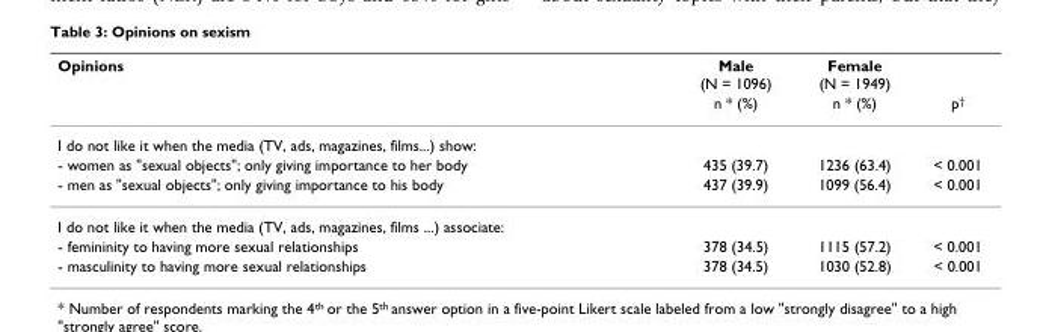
<table><thead><tr><td rowspan="2">Opinions</td><td rowspan="2">Male (N = 1096) n * (%)</td><td rowspan="2">Female (N = 1949) n * (%)</td><td rowspan="2">p<sup>†</sup></td></tr><tr></tr></thead><tbody><tr><td colspan="4">I do not like it when the media (TV, ads, magazines, films...) show:</td></tr><tr><td>- women as &quot;sexual objects&quot;; only giving importance to her body</td><td>435 (39.7)</td><td>1236 (63.4)</td><td>&lt; 0.001</td></tr><tr><td>- men as &quot;sexual objects&quot;; only giving importance to his body</td><td>437 (39.9)</td><td>1099 (56.4)</td><td>&lt; 0.001</td></tr><tr><td colspan="4">I do not like it when the media (TV, ads, magazines, films ...) associate:</td></tr><tr><td>- femininity to having more sexual relationships</td><td>378 (34.5)</td><td>1115 (57.2)</td><td>&lt; 0.001</td></tr><tr><td>- masculinity to having more sexual relationships</td><td>378 (34.5)</td><td>1030 (52.8)</td><td>&lt; 0.001</td></tr></tbody></table>